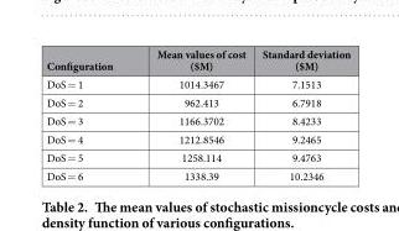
<table><thead><tr><td>Configuration</td><td>Mean values of cost ($M)</td><td>Standard deviation ($M)</td></tr></thead><tbody><tr><td>DoS = 1</td><td>1014.3467</td><td>7.1513</td></tr><tr><td>DoS = 2</td><td>962.413</td><td>6.7918</td></tr><tr><td>DoS = 3</td><td>1166.3702</td><td>8.4233</td></tr><tr><td>DoS = 4</td><td>1212.8546</td><td>9.2465</td></tr><tr><td>DoS = 5</td><td>1258.114</td><td>9.4763</td></tr><tr><td>DoS = 6</td><td>1338.39</td><td>10.2346</td></tr></tbody></table>